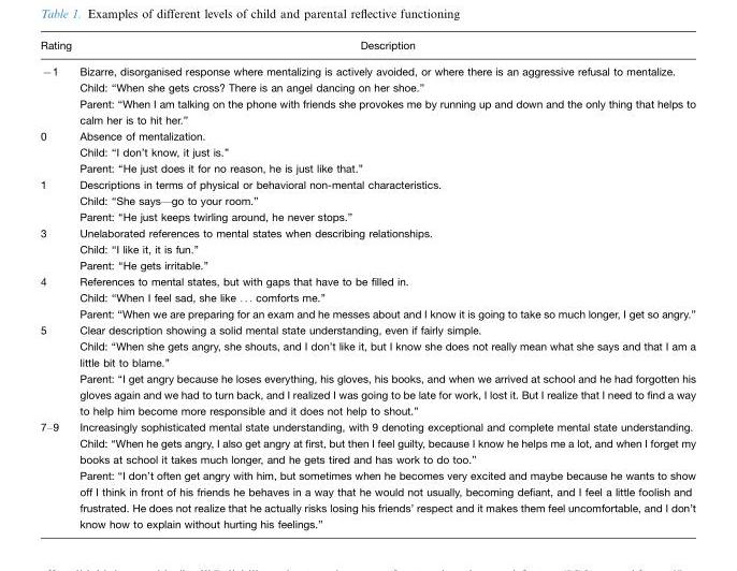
<table><thead><tr><td>Rating</td><td>Description</td></tr></thead><tbody><tr><td>−1</td><td>Bizarre, disorganised response where mentalizing is actively avoided, or where there is an aggressive refusal to mentalize. Child: ‘‘When she gets cross? There is an angel dancing on her shoe.’’ Parent: ‘‘When I am talking on the phone with friends she provokes me by running up and down and the only thing that helps to calm her is to hit her.’’</td></tr><tr><td>0</td><td>Absence of mentalization. Child: ‘‘I don’t know, it just is.’’ Parent: ‘‘He just does it for no reason, he is just like that.’’</td></tr><tr><td>1</td><td>Descriptions in terms of physical or behavioral non-mental characteristics. Child: ‘‘She says*go to your room.’’ Parent: ‘‘He just keeps twirling around, he never stops.’’</td></tr><tr><td>3</td><td>Unelaborated references to mental states when describing relationships. Child: ‘‘I like it, it is fun.’’ Parent: ‘‘He gets irritable.’’</td></tr><tr><td>4</td><td>References to mental states, but with gaps that have to be filled in. Child: ‘‘When I feel sad, she like . . . comforts me.’’ Parent: ‘‘When we are preparing for an exam and he messes about and I know it is going to take so much longer, I get so angry.’’</td></tr><tr><td>5</td><td>Clear description showing a solid mental state understanding, even if fairly simple. Child: ‘‘When she gets angry, she shouts, and I don’t like it, but I know she does not really mean what she says and that I am a little bit to blame.’’ Parent: ‘‘I get angry because he loses everything, his gloves, his books, and when we arrived at school and he had forgotten his gloves again and we had to turn back, and I realized I was going to be late for work, I lost it. But I realize that I need to find a way to help him become more responsible and it does not help to shout.’’</td></tr><tr><td>7–9</td><td>Increasingly sophisticated mental state understanding, with 9 denoting exceptional and complete mental state understanding. Child: ‘‘When he gets angry, I also get angry at first, but then I feel guilty, because I know he helps me a lot, and when I forget my books at school it takes much longer, and he gets tired and has work to do too.’’ Parent: ‘‘I don’t often get angry with him, but sometimes when he becomes very excited and maybe because he wants to show off I think in front of his friends he behaves in a way that he would not usually, becoming defiant, and I feel a little foolish and frustrated. He does not realize that he actually risks losing his friends’ respect and it makes them feel uncomfortable, and I don’t know how to explain without hurting his feelings.’’</td></tr></tbody></table>